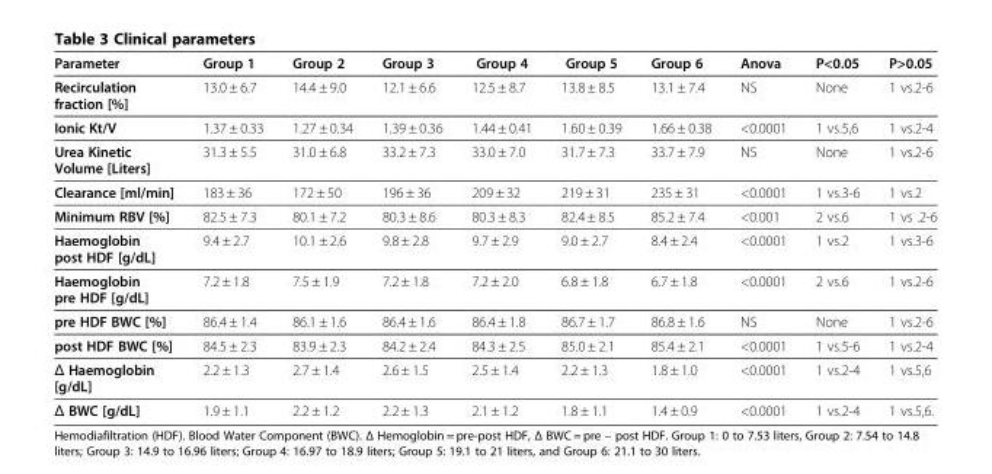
<table><thead><tr><td>Parameter</td><td>Group 1</td><td>Group 2</td><td>Group 3</td><td>Group 4</td><td>Group 5</td><td>Group 6</td><td>Anova</td><td>P&lt;0.05</td><td>P&gt;0.05</td></tr></thead><tbody><tr><td>Recirculation fraction [%]</td><td>13.0 ± 6.7</td><td>14.4 ± 9.0</td><td>12.1 ± 6.6</td><td>12.5 ± 8.7</td><td>13.8 ± 8.5</td><td>13.1 ± 7.4</td><td>NS</td><td>None</td><td>1 vs.2-6</td></tr><tr><td>Ionic Kt/V</td><td>1.37 ± 0.33</td><td>1.27 ± 0.34</td><td>1.39 ± 0.36</td><td>1.44 ± 0.41</td><td>1.60 ± 0.39</td><td>1.66 ± 0.38</td><td>&lt;0.0001</td><td>1 vs.5,6</td><td>1 vs.2-4</td></tr><tr><td>Urea Kinetic Volume [Liters]</td><td>31.3 ± 5.5</td><td>31.0 ± 6.8</td><td>33.2 ± 7.3</td><td>33.0 ± 7.0</td><td>31.7 ± 7.3</td><td>33.7 ± 7.9</td><td>NS</td><td>None</td><td>1 vs.2-6</td></tr><tr><td>Clearance [ml/min]</td><td>183 ± 36</td><td>172 ± 50</td><td>196 ± 36</td><td>209 ± 32</td><td>219 ± 31</td><td>235 ± 31</td><td>&lt;0.0001</td><td>1 vs.3-6</td><td>1 vs.2</td></tr><tr><td>Minimum RBV [%]</td><td>82.5 ± 7.3</td><td>80.1 ± 7.2</td><td>80.3 ± 8.6</td><td>80.3 ± 8.3</td><td>82.4 ± 8.5</td><td>85.2 ± 7.4</td><td>&lt;0.001</td><td>2 vs.6</td><td>1 vs .2-6</td></tr><tr><td>Haemoglobin post HDF [g/dL]</td><td>9.4 ± 2.7</td><td>10.1 ± 2.6</td><td>9.8 ± 2.8</td><td>9.7 ± 2.9</td><td>9.0 ± 2.7</td><td>8.4 ± 2.4</td><td>&lt;0.0001</td><td>1 vs.2</td><td>1 vs.3-6</td></tr><tr><td>Haemoglobin pre HDF [g/dL]</td><td>7.2 ± 1.8</td><td>7.5 ± 1.9</td><td>7.2 ± 1.8</td><td>7.2 ± 2.0</td><td>6.8 ± 1.8</td><td>6.7 ± 1.8</td><td>&lt;0.0001</td><td>2 vs.6</td><td>1 vs.2-6</td></tr><tr><td>pre HDF BWC [%]</td><td>86.4 ± 1.4</td><td>86.1 ± 1.6</td><td>86.4 ± 1.6</td><td>86.4 ± 1.8</td><td>86.7 ± 1.7</td><td>86.8 ± 1.6</td><td>NS</td><td>None</td><td>1 vs.2-6</td></tr><tr><td>post HDF BWC [%]</td><td>84.5 ± 2.3</td><td>83.9 ± 2.3</td><td>84.2 ± 2.4</td><td>84.3 ± 2.5</td><td>85.0 ± 2.1</td><td>85.4 ± 2.1</td><td>&lt;0.0001</td><td>1 vs.5-6</td><td>1 vs.2-4</td></tr><tr><td>Δ Haemoglobin [g/dL]</td><td>2.2 ± 1.3</td><td>2.7 ± 1.4</td><td>2.6 ± 1.5</td><td>2.5 ± 1.4</td><td>2.2 ± 1.3</td><td>1.8 ± 1.0</td><td>&lt;0.0001</td><td>1 vs.2-4</td><td>1 vs.5,6</td></tr><tr><td>Δ BWC [g/dL]</td><td>1.9 ± 1.1</td><td>2.2 ± 1.2</td><td>2.2 ± 1.3</td><td>2.1 ± 1.2</td><td>1.8 ± 1.1</td><td>1.4 ± 0.9</td><td>&lt;0.0001</td><td>1 vs.2-4</td><td>1 vs.5,6.</td></tr></tbody></table>